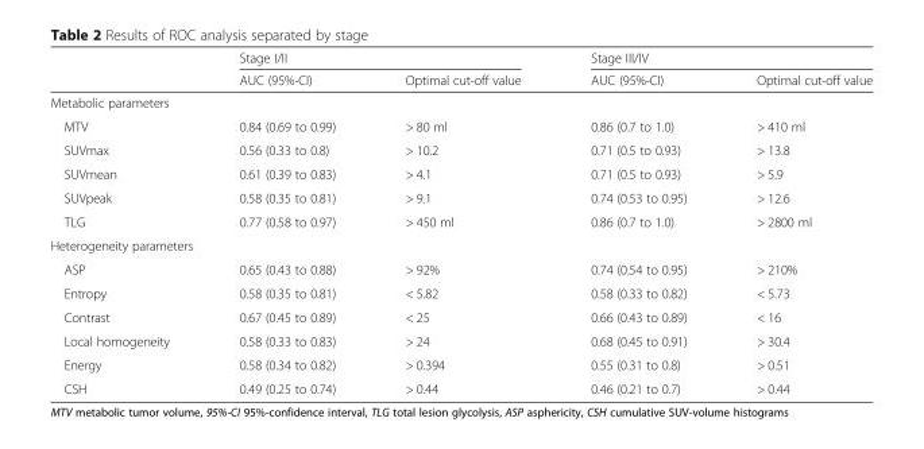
<table><thead><tr><td rowspan="2"></td><td colspan="2">Stage I/II</td><td colspan="2">Stage III/IV</td></tr><tr><td>AUC (95%-CI)</td><td>Optimal cut-off value</td><td>AUC (95%-CI)</td><td>Optimal cut-off value</td></tr></thead><tbody><tr><td colspan="5">Metabolic parameters</td></tr><tr><td>MTV</td><td>0.84 (0.69 to 0.99)</td><td>&gt; 80 ml</td><td>0.86 (0.7 to 1.0)</td><td>&gt; 410 ml</td></tr><tr><td>SUVmax</td><td>0.56 (0.33 to 0.8)</td><td>&gt; 10.2</td><td>0.71 (0.5 to 0.93)</td><td>&gt; 13.8</td></tr><tr><td>SUVmean</td><td>0.61 (0.39 to 0.83)</td><td>&gt; 4.1</td><td>0.71 (0.5 to 0.93)</td><td>&gt; 5.9</td></tr><tr><td>SUVpeak</td><td>0.58 (0.35 to 0.81)</td><td>&gt; 9.1</td><td>0.74 (0.53 to 0.95)</td><td>&gt; 12.6</td></tr><tr><td>TLG</td><td>0.77 (0.58 to 0.97)</td><td>&gt; 450 ml</td><td>0.86 (0.7 to 1.0)</td><td>&gt; 2800 ml</td></tr><tr><td colspan="5">Heterogeneity parameters</td></tr><tr><td>ASP</td><td>0.65 (0.43 to 0.88)</td><td>&gt; 92%</td><td>0.74 (0.54 to 0.95)</td><td>&gt; 210%</td></tr><tr><td>Entropy</td><td>0.58 (0.35 to 0.81)</td><td>&lt; 5.82</td><td>0.58 (0.33 to 0.82)</td><td>&lt; 5.73</td></tr><tr><td>Contrast</td><td>0.67 (0.45 to 0.89)</td><td>&lt; 25</td><td>0.66 (0.43 to 0.89)</td><td>&lt; 16</td></tr><tr><td>Local homogeneity</td><td>0.58 (0.33 to 0.83)</td><td>&gt; 24</td><td>0.68 (0.45 to 0.91)</td><td>&gt; 30.4</td></tr><tr><td>Energy</td><td>0.58 (0.34 to 0.82)</td><td>&gt; 0.394</td><td>0.55 (0.31 to 0.8)</td><td>&gt; 0.51</td></tr><tr><td>CSH</td><td>0.49 (0.25 to 0.74)</td><td>&gt; 0.44</td><td>0.46 (0.21 to 0.7)</td><td>&gt; 0.44</td></tr></tbody></table>